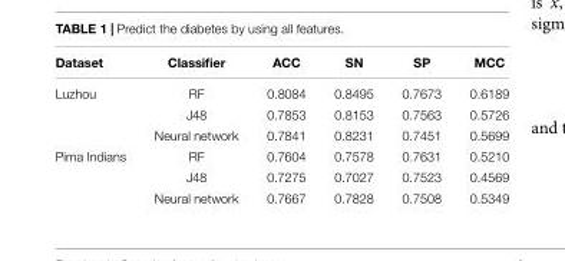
<table><thead><tr><td>Dataset</td><td>Classifier</td><td>ACC</td><td>SN</td><td>SP</td><td>MCC</td></tr></thead><tbody><tr><td rowspan="3">Luzhou</td><td>RF</td><td>0.8084</td><td>0.8495</td><td>0.7673</td><td>0.6189</td></tr><tr><td>J48</td><td>0.7853</td><td>0.8153</td><td>0.7563</td><td>0.5726</td></tr><tr><td>Neural network</td><td>0.7841</td><td>0.8231</td><td>0.7451</td><td>0.5699</td></tr><tr><td rowspan="3">Pima Indians</td><td>RF</td><td>0.7604</td><td>0.7578</td><td>0.7631</td><td>0.5210</td></tr><tr><td>J48</td><td>0.7275</td><td>0.7027</td><td>0.7523</td><td>0.4569</td></tr><tr><td>Neural network</td><td>0.7667</td><td>0.7828</td><td>0.7508</td><td>0.5349</td></tr></tbody></table>